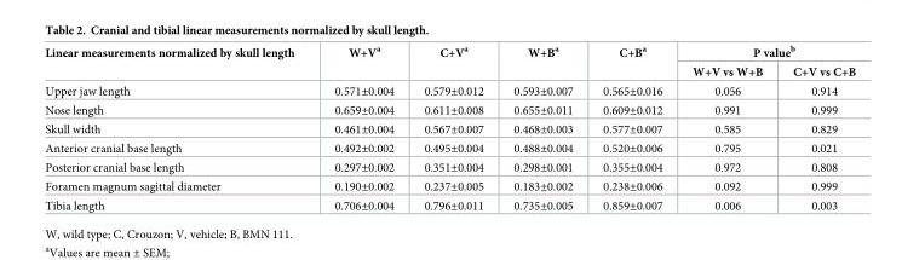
<table><thead><tr><td rowspan="2">Linear measurements normalized by skull length</td><td rowspan="2">W+V<sup>a</sup></td><td rowspan="2">C+V<sup>a</sup></td><td rowspan="2">W+B<sup>a</sup></td><td rowspan="2">C+B<sup>a</sup></td><td colspan="2">P value<sup>b</sup></td></tr><tr><td>W+V vs W+B</td><td>C+V vs C+B</td></tr></thead><tbody><tr><td>Upper jaw length</td><td>0.571±0.004</td><td>0.579±0.012</td><td>0.593±0.007</td><td>0.565±0.016</td><td>0.056</td><td>0.914</td></tr><tr><td>Nose length</td><td>0.659±0.004</td><td>0.611±0.008</td><td>0.655±0.011</td><td>0.609±0.012</td><td>0.991</td><td>0.999</td></tr><tr><td>Skull width</td><td>0.461±0.004</td><td>0.567±0.007</td><td>0.468±0.003</td><td>0.577±0.007</td><td>0.585</td><td>0.829</td></tr><tr><td>Anterior cranial base length</td><td>0.492±0.002</td><td>0.495±0.004</td><td>0.488±0.004</td><td>0.520±0.006</td><td>0.795</td><td>0.021</td></tr><tr><td>Posterior cranial base length</td><td>0.297±0.002</td><td>0.351±0.004</td><td>0.298±0.001</td><td>0.355±0.004</td><td>0.972</td><td>0.808</td></tr><tr><td>Foramen magnum sagittal diameter</td><td>0.190±0.002</td><td>0.237±0.005</td><td>0.183±0.002</td><td>0.238±0.006</td><td>0.092</td><td>0.999</td></tr><tr><td>Tibia length</td><td>0.706±0.004</td><td>0.796±0.011</td><td>0.735±0.005</td><td>0.859±0.007</td><td>0.006</td><td>0.003</td></tr></tbody></table>